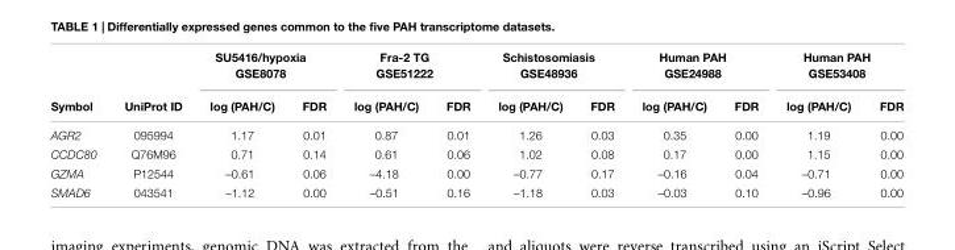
<table><thead><tr><td rowspan="2">Symbol</td><td rowspan="2">UniProt ID</td><td colspan="2">SU5416/hypoxia GSE8078</td><td colspan="2">Fra-2 TG GSE51222</td><td colspan="2">Schistosomiasis GSE48936</td><td colspan="2">Human PAH GSE24988</td><td colspan="2">Human PAH GSE53408</td></tr><tr><td>log (PAH/C)</td><td>FDR</td><td>log (PAH/C)</td><td>FDR</td><td>log (PAH/C)</td><td>FDR</td><td>log (PAH/C)</td><td>FDR</td><td>log (PAH/C)</td><td>FDR</td></tr></thead><tbody><tr><td>AGR2</td><td>095994</td><td>1.17</td><td>0.01</td><td>0.87</td><td>0.01</td><td>1.26</td><td>0.03</td><td>0.35</td><td>0.00</td><td>1.19</td><td>0.00</td></tr><tr><td>CCDC80</td><td>Q76M96</td><td>0.71</td><td>0.14</td><td>0.61</td><td>0.06</td><td>1.02</td><td>0.08</td><td>0.17</td><td>0.00</td><td>1.15</td><td>0.00</td></tr><tr><td>GZMA</td><td>P12544</td><td>–0.61</td><td>0.06</td><td>–4.18</td><td>0.00</td><td>–0.77</td><td>0.17</td><td>–0.16</td><td>0.04</td><td>–0.71</td><td>0.00</td></tr><tr><td>SMAD6</td><td>043541</td><td>–1.12</td><td>0.00</td><td>–0.51</td><td>0.16</td><td>–1.18</td><td>0.03</td><td>–0.03</td><td>0.10</td><td>–0.96</td><td>0.00</td></tr></tbody></table>